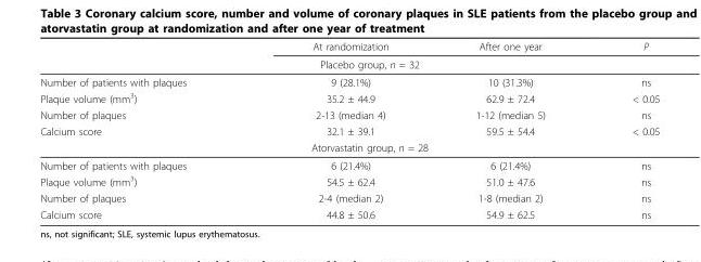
<table><thead><tr><td></td><td>At randomization</td><td>After one year</td><td>P</td></tr><tr><td colspan="4">Placebo group, n = 32</td></tr></thead><tbody><tr><td>Number of patients with plaques</td><td>9 (28.1%)</td><td>10 (31.3%)</td><td>ns</td></tr><tr><td>Plaque volume (mm<sup>3</sup>)</td><td>35.2 ± 44.9</td><td>62.9 ± 72.4</td><td>&lt; 0.05</td></tr><tr><td>Number of plaques</td><td>2-13 (median 4)</td><td>1-12 (median 5)</td><td>ns</td></tr><tr><td>Calcium score</td><td>32.1 ± 39.1</td><td>59.5 ± 54.4</td><td>&lt; 0.05</td></tr><tr><td colspan="4">Atorvastatin group, n = 28</td></tr><tr><td>Number of patients with plaques</td><td>6 (21.4%)</td><td>6 (21.4%)</td><td>ns</td></tr><tr><td>Plaque volume (mm<sup>3</sup>)</td><td>54.5 ± 62.4</td><td>51.0 ± 47.6</td><td>ns</td></tr><tr><td>Number of plaques</td><td>2-4 (median 2)</td><td>1-8 (median 2)</td><td>ns</td></tr><tr><td>Calcium score</td><td>44.8 ± 50.6</td><td>54.9 ± 62.5</td><td>ns</td></tr></tbody></table>